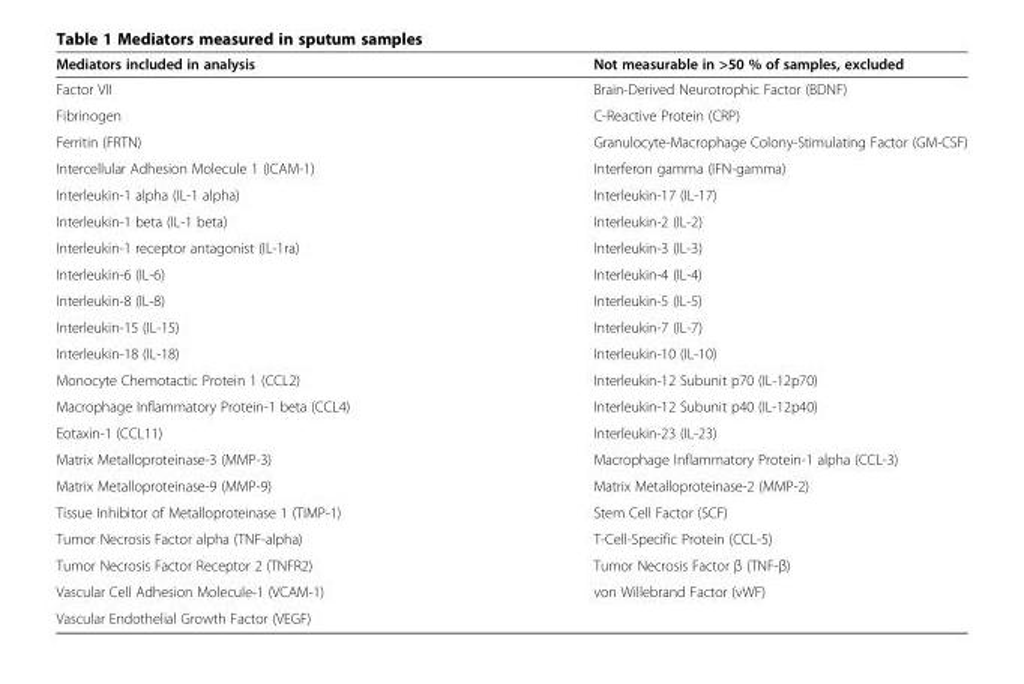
<table><thead><tr><td>Mediators included in analysis</td><td>Not measurable in &gt;50 % of samples, excluded</td></tr></thead><tbody><tr><td>Factor VII</td><td>Brain-Derived Neurotrophic Factor (BDNF)</td></tr><tr><td>Fibrinogen</td><td>C-Reactive Protein (CRP)</td></tr><tr><td>Ferritin (FRTN)</td><td>Granulocyte-Macrophage Colony-Stimulating Factor (GM-CSF)</td></tr><tr><td>Intercellular Adhesion Molecule 1 (ICAM-1)</td><td>Interferon gamma (IFN-gamma)</td></tr><tr><td>Interleukin-1 alpha (IL-1 alpha)</td><td>Interleukin-17 (IL-17)</td></tr><tr><td>Interleukin-1 beta (IL-1 beta)</td><td>Interleukin-2 (IL-2)</td></tr><tr><td>Interleukin-1 receptor antagonist (IL-1ra)</td><td>Interleukin-3 (IL-3)</td></tr><tr><td>Interleukin-6 (IL-6)</td><td>Interleukin-4 (IL-4)</td></tr><tr><td>Interleukin-8 (IL-8)</td><td>Interleukin-5 (IL-5)</td></tr><tr><td>Interleukin-15 (IL-15)</td><td>Interleukin-7 (IL-7)</td></tr><tr><td>Interleukin-18 (IL-18)</td><td>Interleukin-10 (IL-10)</td></tr><tr><td>Monocyte Chemotactic Protein 1 (CCL2)</td><td>Interleukin-12 Subunit p70 (IL-12p70)</td></tr><tr><td>Macrophage Inflammatory Protein-1 beta (CCL4)</td><td>Interleukin-12 Subunit p40 (IL-12p40)</td></tr><tr><td>Eotaxin-1 (CCL11)</td><td>Interleukin-23 (IL-23)</td></tr><tr><td>Matrix Metalloproteinase-3 (MMP-3)</td><td>Macrophage Inflammatory Protein-1 alpha (CCL-3)</td></tr><tr><td>Matrix Metalloproteinase-9 (MMP-9)</td><td>Matrix Metalloproteinase-2 (MMP-2)</td></tr><tr><td>Tissue Inhibitor of Metalloproteinase 1 (TIMP-1)</td><td>Stem Cell Factor (SCF)</td></tr><tr><td>Tumor Necrosis Factor alpha (TNF-alpha)</td><td>T-Cell-Specific Protein (CCL-5)</td></tr><tr><td>Tumor Necrosis Factor Receptor 2 (TNFR2)</td><td>Tumor Necrosis Factor β (TNF-β)</td></tr><tr><td>Vascular Cell Adhesion Molecule-1 (VCAM-1)</td><td>von Willebrand Factor (vWF)</td></tr><tr><td>Vascular Endothelial Growth Factor (VEGF)</td><td></td></tr></tbody></table>